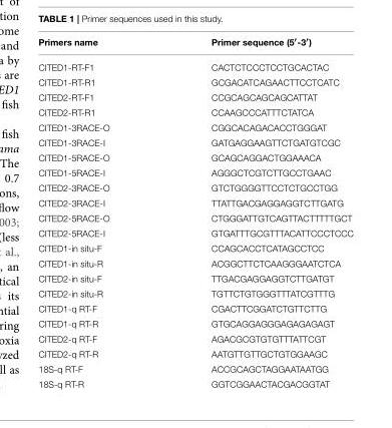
<table><thead><tr><td>Primers name</td><td>Primer sequence (5′-3′)</td></tr></thead><tbody><tr><td>CITED1-RT-F1</td><td>CACTCTCCCTCCTGCACTAC</td></tr><tr><td>CITED1-RT-R1</td><td>GCGACATCAGAACTTCCTCATC</td></tr><tr><td>CITED2-RT-F1</td><td>CCGCAGCAGCAGCATTAT</td></tr><tr><td>CITED2-RT-R1</td><td>CCAAGCCCATTTCTATCA</td></tr><tr><td>CITED1-3RACE-O</td><td>CGGCACAGACACCTGGGAT</td></tr><tr><td>CITED1-3RACE-I</td><td>GATGAGGAAGTTCTGATGTCGC</td></tr><tr><td>CITED1-5RACE-O</td><td>GCAGCAGGACTGGAAACA</td></tr><tr><td>CITED1-5RACE-I</td><td>AGGGCTCGTCTTGCCTGAAC</td></tr><tr><td>CITED2-3RACE-O</td><td>GTCTGGGGTTCCTCTGCCTGG</td></tr><tr><td>CITED2-3RACE-I</td><td>TTATTGACGAGGAGGTCTTGATG</td></tr><tr><td>CITED2-5RACE-O</td><td>CTGGGATTGTCAGTTACTTTTTGCT</td></tr><tr><td>CITED2-5RACE-I</td><td>GTGATTTGCGTTTACATTCCCTCCC</td></tr><tr><td>CITED1-in situ-F</td><td>CCAGCACCTCATAGCCTCC</td></tr><tr><td>CITED1-in situ-R</td><td>ACGGCTTCTCAAGGGAATCTCA</td></tr><tr><td>CITED2-in situ-F</td><td>TTGACGAGGAGGTCTTGATGT</td></tr><tr><td>CITED2-in situ-R</td><td>TGTTCTGTGGGTTTATCGTTTG</td></tr><tr><td>CITED1-q RT-F</td><td>CGACTTCGGATCTGTTCTTG</td></tr><tr><td>CITED1-q RT-R</td><td>GTGCAGGAGGGAGAGAGAGT</td></tr><tr><td>CITED2-q RT-F</td><td>AGACGCGTGTGTTTATTCGT</td></tr><tr><td>CITED2-q RT-R</td><td>AATGTTGTTGCTGTGGAAGC</td></tr><tr><td>18S-q RT-F</td><td>ACCGCAGCTAGGAATAATGG</td></tr><tr><td>18S-q RT-R</td><td>GGTCGGAACTACGACGGTAT</td></tr></tbody></table>